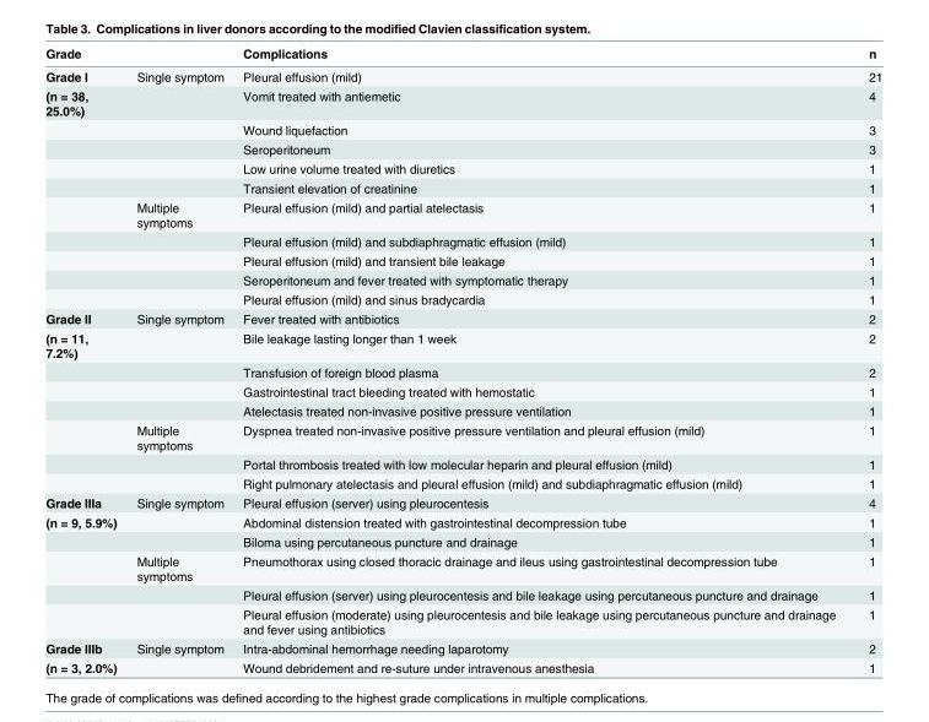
<table><thead><tr><td>Grade</td><td></td><td>Complications</td><td>n</td></tr></thead><tbody><tr><td>Grade I</td><td>Single symptom</td><td>Pleural effusion (mild)</td><td>21</td></tr><tr><td rowspan="10">(n = 38, 25.0%)</td><td></td><td>Vomit treated with antiemetic</td><td>4</td></tr><tr><td></td><td>Wound liquefaction</td><td>3</td></tr><tr><td></td><td>Seroperitoneum</td><td>3</td></tr><tr><td></td><td>Low urine volume treated with diuretics</td><td>1</td></tr><tr><td></td><td>Transient elevation of creatinine</td><td>1</td></tr><tr><td>Multiple symptoms</td><td>Pleural effusion (mild) and partial atelectasis</td><td>1</td></tr><tr><td></td><td>Pleural effusion (mild) and subdiaphragmatic effusion (mild)</td><td>1</td></tr><tr><td></td><td>Pleural effusion (mild) and transient bile leakage</td><td>1</td></tr><tr><td></td><td>Seroperitoneum and fever treated with symptomatic therapy</td><td>1</td></tr><tr><td></td><td>Pleural effusion (mild) and sinus bradycardia</td><td>1</td></tr><tr><td>Grade II</td><td>Single symptom</td><td>Fever treated with antibiotics</td><td>2</td></tr><tr><td rowspan="7">(n = 11, 7.2%)</td><td></td><td>Bile leakage lasting longer than 1 week</td><td>2</td></tr><tr><td></td><td>Transfusion of foreign blood plasma</td><td>2</td></tr><tr><td></td><td>Gastrointestinal tract bleeding treated with hemostatic</td><td>1</td></tr><tr><td></td><td>Atelectasis treated non-invasive positive pressure ventilation</td><td>1</td></tr><tr><td>Multiple symptoms</td><td>Dyspnea treated non-invasive positive pressure ventilation and pleural effusion (mild)</td><td>1</td></tr><tr><td></td><td>Portal thrombosis treated with low molecular heparin and pleural effusion (mild)</td><td>1</td></tr><tr><td></td><td>Right pulmonary atelectasis and pleural effusion (mild) and subdiaphragmatic effusion (mild)</td><td>1</td></tr><tr><td>Grade IIIa</td><td>Single symptom</td><td>Pleural effusion (server) using pleurocentesis</td><td>4</td></tr><tr><td rowspan="5">(n = 9, 5.9%)</td><td></td><td>Abdominal distension treated with gastrointestinal decompression tube</td><td>1</td></tr><tr><td></td><td>Biloma using percutaneous puncture and drainage</td><td>1</td></tr><tr><td>Multiple symptoms</td><td>Pneumothorax using closed thoracic drainage and ileus using gastrointestinal decompression tube</td><td>1</td></tr><tr><td></td><td>Pleural effusion (server) using pleurocentesis and bile leakage using percutaneous puncture and drainage</td><td>1</td></tr><tr><td></td><td>Pleural effusion (moderate) using pleurocentesis and bile leakage using percutaneous puncture and drainage and fever using antibiotics</td><td>1</td></tr><tr><td>Grade IIIb</td><td>Single symptom</td><td>Intra-abdominal hemorrhage needing laparotomy</td><td>2</td></tr><tr><td>(n = 3, 2.0%)</td><td></td><td>Wound debridement and re-suture under intravenous anesthesia</td><td>1</td></tr></tbody></table>